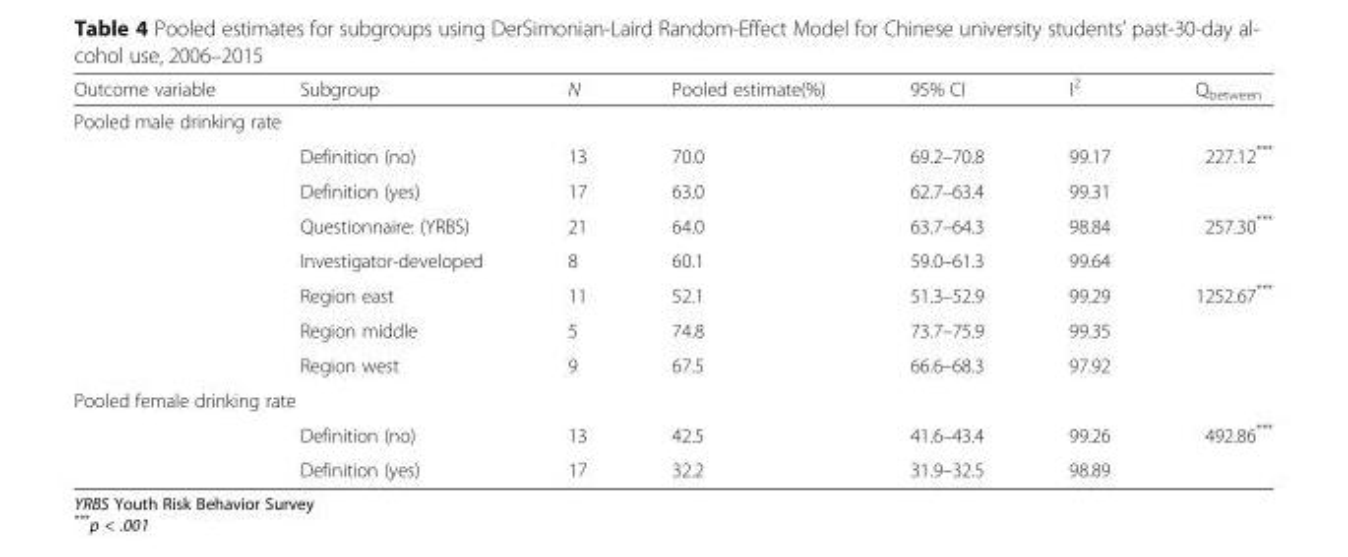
<table><thead><tr><td>Outcome variable</td><td>Subgroup</td><td>N</td><td>Pooled estimate(%)</td><td>95% CI</td><td>I<sup>2</sup></td><td>Q<sub>between</sub></td></tr></thead><tbody><tr><td colspan="7">Pooled male drinking rate</td></tr><tr><td></td><td>Definition (no)</td><td>13</td><td>70.0</td><td>69.2–70.8</td><td>99.17</td><td>227.12***</td></tr><tr><td></td><td>Definition (yes)</td><td>17</td><td>63.0</td><td>62.7–63.4</td><td>99.31</td><td></td></tr><tr><td></td><td>Questionnaire: (YRBS)</td><td>21</td><td>64.0</td><td>63.7–64.3</td><td>98.84</td><td>257.30***</td></tr><tr><td></td><td>Investigator-developed</td><td>8</td><td>60.1</td><td>59.0–61.3</td><td>99.64</td><td></td></tr><tr><td></td><td>Region east</td><td>11</td><td>52.1</td><td>51.3–52.9</td><td>99.29</td><td>1252.67***</td></tr><tr><td></td><td>Region middle</td><td>5</td><td>74.8</td><td>73.7–75.9</td><td>99.35</td><td></td></tr><tr><td></td><td>Region west</td><td>9</td><td>67.5</td><td>66.6–68.3</td><td>97.92</td><td></td></tr><tr><td colspan="7">Pooled female drinking rate</td></tr><tr><td></td><td>Definition (no)</td><td>13</td><td>42.5</td><td>41.6–43.4</td><td>99.26</td><td>492.86***</td></tr><tr><td></td><td>Definition (yes)</td><td>17</td><td>32.2</td><td>31.9–32.5</td><td>98.89</td><td></td></tr></tbody></table>